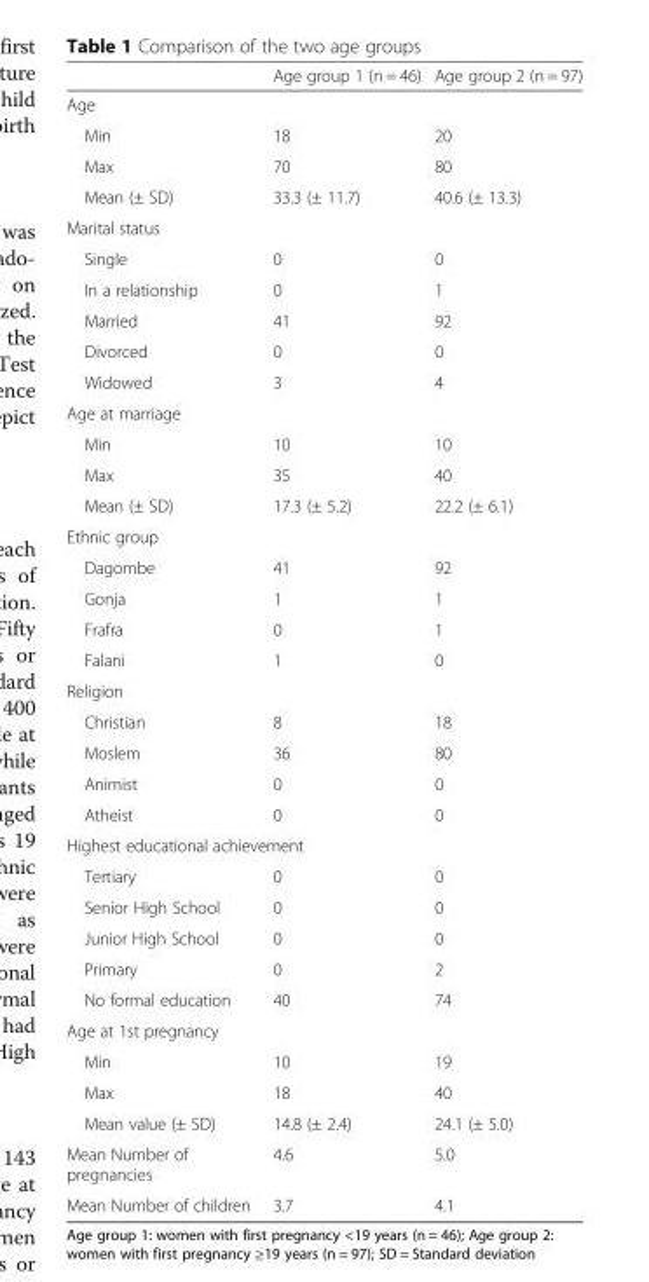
<table><thead><tr><td></td><td>Age group 1 (n = 46)</td><td>Age group 2 (n = 97)</td></tr></thead><tbody><tr><td colspan="3">Age</td></tr><tr><td>Min</td><td>18</td><td>20</td></tr><tr><td>Max</td><td>70</td><td>80</td></tr><tr><td>Mean (± SD)</td><td>33.3 (± 11.7)</td><td>40.6 (± 13.3)</td></tr><tr><td colspan="3">Marital status</td></tr><tr><td>Single</td><td>0</td><td>0</td></tr><tr><td>In a relationship</td><td>0</td><td>1</td></tr><tr><td>Married</td><td>41</td><td>92</td></tr><tr><td>Divorced</td><td>0</td><td>0</td></tr><tr><td>Widowed</td><td>3</td><td>4</td></tr><tr><td colspan="3">Age at marriage</td></tr><tr><td>Min</td><td>10</td><td>10</td></tr><tr><td>Max</td><td>35</td><td>40</td></tr><tr><td>Mean (± SD)</td><td>17.3 (± 5.2)</td><td>22.2 (± 6.1)</td></tr><tr><td colspan="3">Ethnic group</td></tr><tr><td>Dagombe</td><td>41</td><td>92</td></tr><tr><td>Gonja</td><td>1</td><td>1</td></tr><tr><td>Frafra</td><td>0</td><td>1</td></tr><tr><td>Falani</td><td>1</td><td>0</td></tr><tr><td colspan="3">Religion</td></tr><tr><td>Christian</td><td>8</td><td>18</td></tr><tr><td>Moslem</td><td>36</td><td>80</td></tr><tr><td>Animist</td><td>0</td><td>0</td></tr><tr><td>Atheist</td><td>0</td><td>0</td></tr><tr><td colspan="3">Highest educational achievement</td></tr><tr><td>Tertiary</td><td>0</td><td>0</td></tr><tr><td>Senior High School</td><td>0</td><td>0</td></tr><tr><td>Junior High School</td><td>0</td><td>0</td></tr><tr><td>Primary</td><td>0</td><td>2</td></tr><tr><td>No formal education</td><td>40</td><td>74</td></tr><tr><td colspan="3">Age at 1st pregnancy</td></tr><tr><td>Min</td><td>10</td><td>19</td></tr><tr><td>Max</td><td>18</td><td>40</td></tr><tr><td>Mean value (± SD)</td><td>14.8 (± 2.4)</td><td>24.1 (± 5.0)</td></tr><tr><td>Mean Number of pregnancies</td><td>4.6</td><td>5.0</td></tr><tr><td>Mean Number of children</td><td>3.7</td><td>4.1</td></tr></tbody></table>